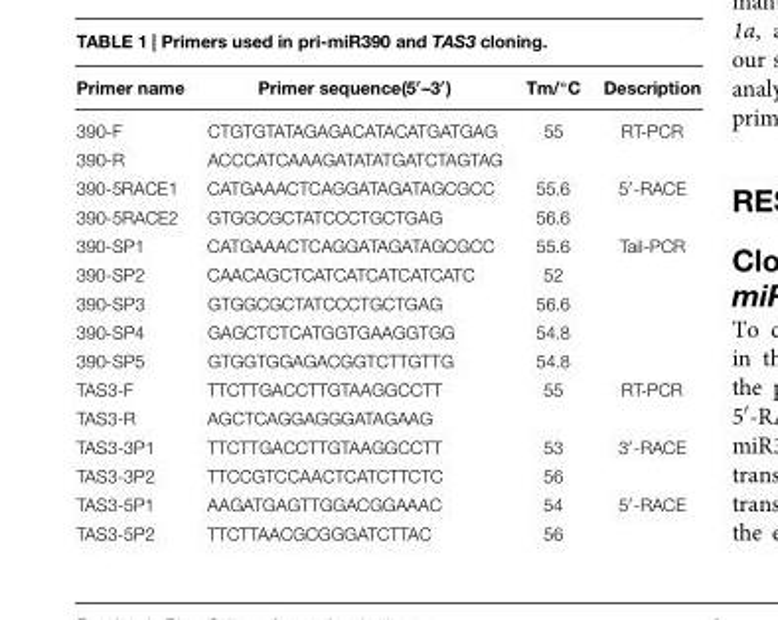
<table><thead><tr><td>Primer name</td><td>Primer sequence(5′–3′)</td><td>Tm/◦C</td><td>Description</td></tr></thead><tbody><tr><td>390-F</td><td>CTGTGTATAGAGACATACATGATGAG</td><td>55</td><td>RT-PCR</td></tr><tr><td>390-R</td><td>ACCCATCAAAGATATATGATCTAGTAG</td><td></td><td></td></tr><tr><td>390-5RACE1</td><td>CATGAAACTCAGGATAGATAGCGCC</td><td>55.6</td><td>5′-RACE</td></tr><tr><td>390-5RACE2</td><td>GTGGCGCTATCCCTGCTGAG</td><td>56.6</td><td></td></tr><tr><td>390-SP1</td><td>CATGAAACTCAGGATAGATAGCGCC</td><td>55.6</td><td>Tail-PCR</td></tr><tr><td>390-SP2</td><td>CAACAGCTCATCATCATCATCATC</td><td>52</td><td></td></tr><tr><td>390-SP3</td><td>GTGGCGCTATCCCTGCTGAG</td><td>56.6</td><td></td></tr><tr><td>390-SP4</td><td>GAGCTCTCATGGTGAAGGTGG</td><td>54.8</td><td></td></tr><tr><td>390-SP5</td><td>GTGGTGGAGACGGTCTTGTTG</td><td>54.8</td><td></td></tr><tr><td>TAS3-F</td><td>TTCTTGACCTTGTAAGGCCTT</td><td>55</td><td>RT-PCR</td></tr><tr><td>TAS3-R</td><td>AGCTCAGGAGGGATAGAAG</td><td></td><td></td></tr><tr><td>TAS3-3P1</td><td>TTCTTGACCTTGTAAGGCCTT</td><td>53</td><td>3′-RACE</td></tr><tr><td>TAS3-3P2</td><td>TTCCGTCCAACTCATCTTCTC</td><td>56</td><td></td></tr><tr><td>TAS3-5P1</td><td>AAGATGAGTTGGACGGAAAC</td><td>54</td><td>5′-RACE</td></tr><tr><td>TAS3-5P2</td><td>TTCTTAACGCGGGATCTTAC</td><td>56</td><td></td></tr></tbody></table>